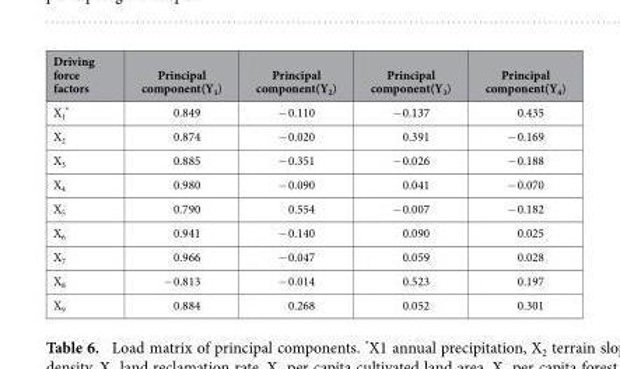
<table><thead><tr><td>Driving force factors</td><td>Principal component(Y<sub>1</sub>)</td><td>Principal component(Y<sub>2</sub>)</td><td>Principal component(Y<sub>3</sub>)</td><td>Principal component(Y<sub>4</sub>)</td></tr></thead><tbody><tr><td>X<sub>1</sub> *</td><td>0.849</td><td>− 0.110</td><td>− 0.137</td><td>0.435</td></tr><tr><td>X<sub>2</sub></td><td>0.874</td><td>− 0.020</td><td>0.391</td><td>− 0.169</td></tr><tr><td>X<sub>3</sub></td><td>0.885</td><td>− 0.351</td><td>− 0.026</td><td>− 0.188</td></tr><tr><td>X<sub>4</sub></td><td>0.980</td><td>− 0.090</td><td>0.041</td><td>− 0.070</td></tr><tr><td>X<sub>5</sub></td><td>0.790</td><td>0.554</td><td>− 0.007</td><td>− 0.182</td></tr><tr><td>X<sub>6</sub></td><td>0.941</td><td>− 0.140</td><td>0.090</td><td>0.025</td></tr><tr><td>X<sub>7</sub></td><td>0.966</td><td>− 0.047</td><td>0.059</td><td>0.028</td></tr><tr><td>X<sub>8</sub></td><td>− 0.813</td><td>− 0.014</td><td>0.523</td><td>0.197</td></tr><tr><td>X<sub>9</sub></td><td>0.884</td><td>0.268</td><td>0.052</td><td>0.301</td></tr></tbody></table>